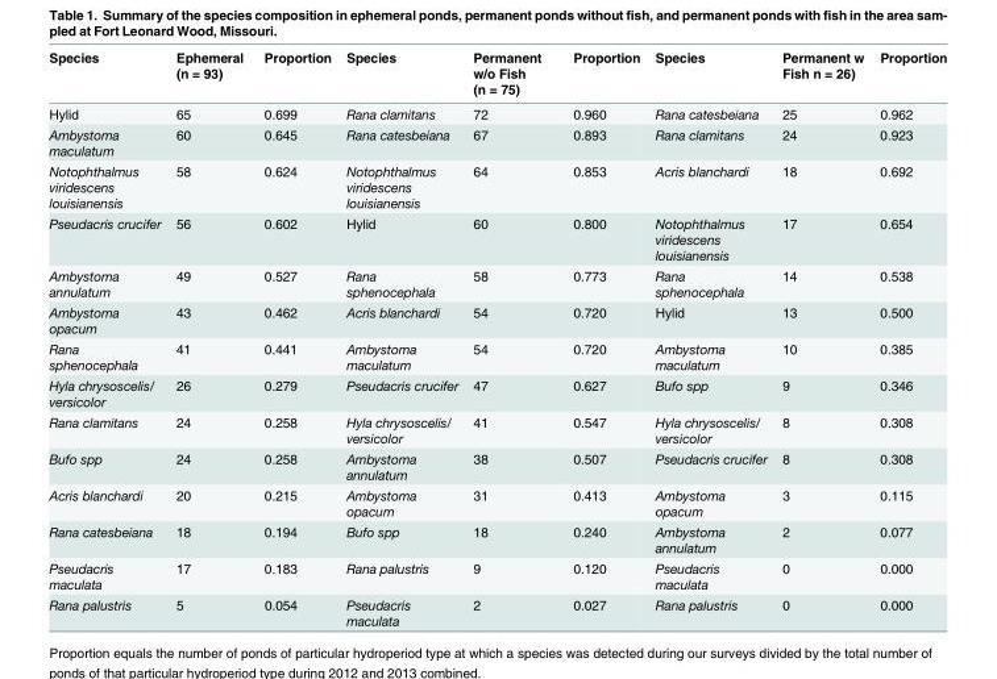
<table><thead><tr><td>Species</td><td>Ephemeral (n = 93)</td><td>Proportion</td><td>Species</td><td>Permanent w/o Fish (n = 75)</td><td>Proportion</td><td>Species</td><td>Permanent w Fish n = 26)</td><td>Proportion</td></tr></thead><tbody><tr><td>Hylid</td><td>65</td><td>0.699</td><td>Rana clamitans</td><td>72</td><td>0.960</td><td>Rana catesbeiana</td><td>25</td><td>0.962</td></tr><tr><td>Ambystoma maculatum</td><td>60</td><td>0.645</td><td>Rana catesbeiana</td><td>67</td><td>0.893</td><td>Rana clamitans</td><td>24</td><td>0.923</td></tr><tr><td>Notophthalmus viridescens louisianensis</td><td>58</td><td>0.624</td><td>Notophthalmus viridescens louisianensis</td><td>64</td><td>0.853</td><td>Acris blanchardi</td><td>18</td><td>0.692</td></tr><tr><td>Pseudacris crucifer</td><td>56</td><td>0.602</td><td>Hylid</td><td>60</td><td>0.800</td><td>Notophthalmus viridescens louisianensis</td><td>17</td><td>0.654</td></tr><tr><td>Ambystoma annulatum</td><td>49</td><td>0.527</td><td>Rana sphenocephala</td><td>58</td><td>0.773</td><td>Rana sphenocephala</td><td>14</td><td>0.538</td></tr><tr><td>Ambystoma opacum</td><td>43</td><td>0.462</td><td>Acris blanchardi</td><td>54</td><td>0.720</td><td>Hylid</td><td>13</td><td>0.500</td></tr><tr><td>Rana sphenocephala</td><td>41</td><td>0.441</td><td>Ambystoma maculatum</td><td>54</td><td>0.720</td><td>Ambystoma maculatum</td><td>10</td><td>0.385</td></tr><tr><td>Hyla chrysoscelis/ versicolor</td><td>26</td><td>0.279</td><td>Pseudacris crucifer</td><td>47</td><td>0.627</td><td>Bufo spp</td><td>9</td><td>0.346</td></tr><tr><td>Rana clamitans</td><td>24</td><td>0.258</td><td>Hyla chrysoscelis/ versicolor</td><td>41</td><td>0.547</td><td>Hyla chrysoscelis/ versicolor</td><td>8</td><td>0.308</td></tr><tr><td>Bufo spp</td><td>24</td><td>0.258</td><td>Ambystoma annulatum</td><td>38</td><td>0.507</td><td>Pseudacris crucifer</td><td>8</td><td>0.308</td></tr><tr><td>Acris blanchardi</td><td>20</td><td>0.215</td><td>Ambystoma opacum</td><td>31</td><td>0.413</td><td>Ambystoma opacum</td><td>3</td><td>0.115</td></tr><tr><td>Rana catesbeiana</td><td>18</td><td>0.194</td><td>Bufo spp</td><td>18</td><td>0.240</td><td>Ambystoma annulatum</td><td>2</td><td>0.077</td></tr><tr><td>Pseudacris maculata</td><td>17</td><td>0.183</td><td>Rana palustris</td><td>9</td><td>0.120</td><td>Pseudacris maculata</td><td>0</td><td>0.000</td></tr><tr><td>Rana palustris</td><td>5</td><td>0.054</td><td>Pseudacris maculata</td><td>2</td><td>0.027</td><td>Rana palustris</td><td>0</td><td>0.000</td></tr></tbody></table>